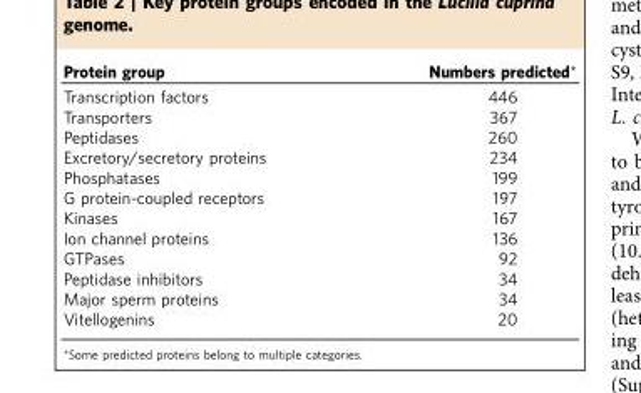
<table><thead><tr><td>Protein group</td><td>Numbers predicted*</td></tr></thead><tbody><tr><td>Transcription factors</td><td>446</td></tr><tr><td>Transporters</td><td>367</td></tr><tr><td>Peptidases</td><td>260</td></tr><tr><td>Excretory/secretory proteins</td><td>234</td></tr><tr><td>Phosphatases</td><td>199</td></tr><tr><td>G protein-coupled receptors</td><td>197</td></tr><tr><td>Kinases</td><td>167</td></tr><tr><td>Ion channel proteins</td><td>136</td></tr><tr><td>GTPases</td><td>92</td></tr><tr><td>Peptidase inhibitors</td><td>34</td></tr><tr><td>Major sperm proteins</td><td>34</td></tr><tr><td>Vitellogenins</td><td>20</td></tr></tbody></table>